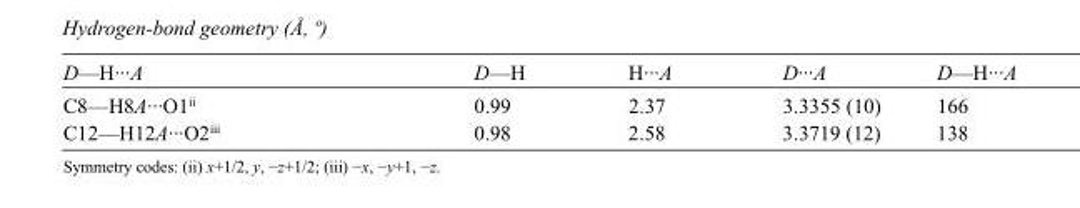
<table><tbody><tr><td>D—H···A</td><td>D—H</td><td>H···A</td><td>D···A</td><td>D—H···A</td></tr><tr><td>C8—H8A···O1<sup>ii</sup></td><td>0.99</td><td>2.37</td><td>3.3355 (10)</td><td>166</td></tr><tr><td>C12—H12A···O2<sup>iii</sup></td><td>0.98</td><td>2.58</td><td>3.3719 (12)</td><td>138</td></tr></tbody></table>